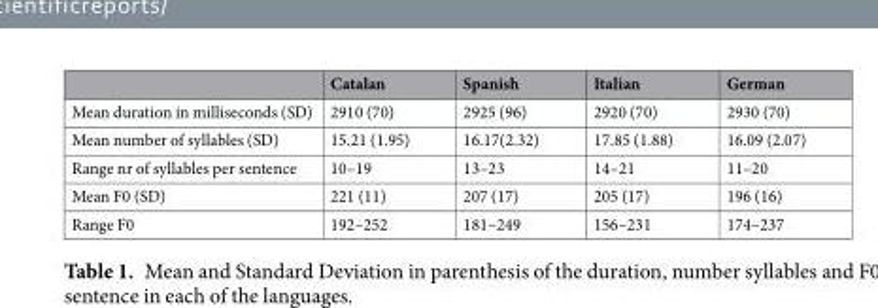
<table><thead><tr><td></td><td>Catalan</td><td>Spanish</td><td>Italian</td><td>German</td></tr></thead><tbody><tr><td>Mean duration in milliseconds (SD)</td><td>2910 (70)</td><td>2925 (96)</td><td>2920 (70)</td><td>2930 (70)</td></tr><tr><td>Mean number of syllables (SD)</td><td>15.21 (1.95)</td><td>16.17(2.32)</td><td>17.85 (1.88)</td><td>16.09 (2.07)</td></tr><tr><td>Range nr of syllables per sentence</td><td>10–19</td><td>13–23</td><td>14–21</td><td>11–20</td></tr><tr><td>Mean F0 (SD)</td><td>221 (11)</td><td>207 (17)</td><td>205 (17)</td><td>196 (16)</td></tr><tr><td>Range F0</td><td>192–252</td><td>181–249</td><td>156–231</td><td>174–237</td></tr></tbody></table>